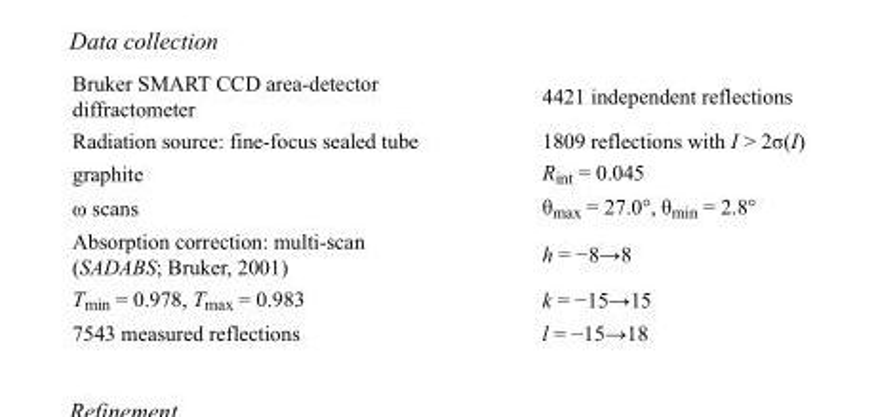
<table><tbody><tr><td>Bruker SMART CCD area-detector diffractometer</td><td>4421 independent reflections</td></tr><tr><td>Radiation source: fine-focus sealed tube</td><td>1809 reflections with I &gt; 2σ(I)</td></tr><tr><td>graphite</td><td>R<sub>int</sub> = 0.045</td></tr><tr><td>ω scans</td><td>θ<sub>max</sub> = 27.0°, θ<sub>min</sub> = 2.8°</td></tr><tr><td>Absorption correction: multi-scan (SADABS; Bruker, 2001)</td><td>h = −8→8</td></tr><tr><td>T<sub>min</sub> = 0.978, T<sub>max</sub> = 0.983</td><td>k = −15→15</td></tr><tr><td>7543 measured reflections</td><td>l = −15→18</td></tr></tbody></table>